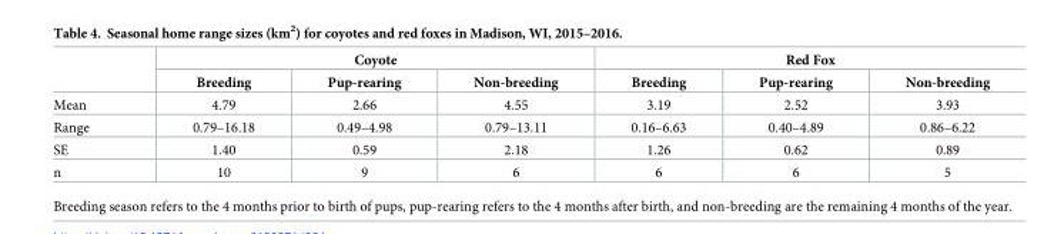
<table><thead><tr><td rowspan="2"></td><td colspan="3">Coyote</td><td colspan="3">Red Fox</td></tr><tr><td>Breeding</td><td>Pup-rearing</td><td>Non-breeding</td><td>Breeding</td><td>Pup-rearing</td><td>Non-breeding</td></tr></thead><tbody><tr><td>Mean</td><td>4.79</td><td>2.66</td><td>4.55</td><td>3.19</td><td>2.52</td><td>3.93</td></tr><tr><td>Range</td><td>0.79–16.18</td><td>0.49–4.98</td><td>0.79–13.11</td><td>0.16–6.63</td><td>0.40–4.89</td><td>0.86–6.22</td></tr><tr><td>SE</td><td>1.40</td><td>0.59</td><td>2.18</td><td>1.26</td><td>0.62</td><td>0.89</td></tr><tr><td>n</td><td>10</td><td>9</td><td>6</td><td>6</td><td>6</td><td>5</td></tr></tbody></table>